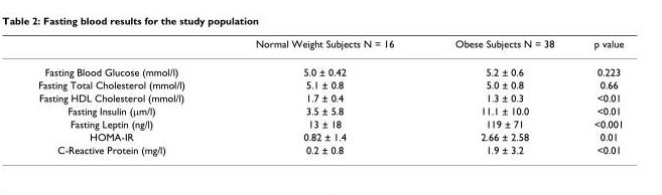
<table><thead><tr><td></td><td>Normal Weight Subjects N = 16</td><td>Obese Subjects N = 38</td><td>p value</td></tr></thead><tbody><tr><td>Fasting Blood Glucose (mmol/l)</td><td>5.0 ± 0.42</td><td>5.2 ± 0.6</td><td>0.223</td></tr><tr><td>Fasting Total Cholesterol (mmol/l)</td><td>5.1 ± 0.8</td><td>5.0 ± 0.8</td><td>0.66</td></tr><tr><td>Fasting HDL Cholesterol (mmol/l)</td><td>1.7 ± 0.4</td><td>1.3 ± 0.3</td><td>&lt;0.01</td></tr><tr><td>Fasting Insulin (μm/l)</td><td>3.5 ± 5.8</td><td>11.1 ± 10.0</td><td>&lt;0.01</td></tr><tr><td>Fasting Leptin (ng/l)</td><td>13 ± 18</td><td>119 ± 71</td><td>&lt;0.001</td></tr><tr><td>HOMA-IR</td><td>0.82 ± 1.4</td><td>2.66 ± 2.58</td><td>0.01</td></tr><tr><td>C-Reactive Protein (mg/l)</td><td>0.2 ± 0.8</td><td>1.9 ± 3.2</td><td>&lt;0.01</td></tr></tbody></table>